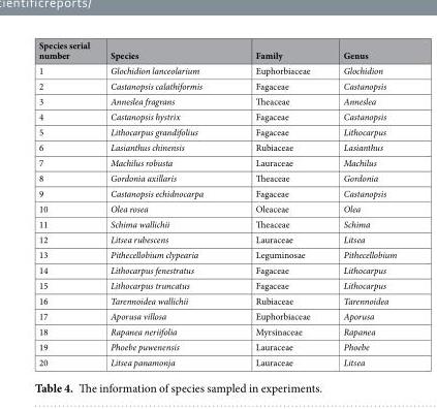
<table><thead><tr><td>Species serial number</td><td>Species</td><td>Family</td><td>Genus</td></tr></thead><tbody><tr><td>1</td><td>Glochidion lanceolarium</td><td>Euphorbiaceae</td><td>Glochidion</td></tr><tr><td>2</td><td>Castanopsis calathiformis</td><td>Fagaceae</td><td>Castanopsis</td></tr><tr><td>3</td><td>Anneslea fragrans</td><td>Theaceae</td><td>Anneslea</td></tr><tr><td>4</td><td>Castanopsis hystrix</td><td>Fagaceae</td><td>Castanopsis</td></tr><tr><td>5</td><td>Lithocarpus grandifolius</td><td>Fagaceae</td><td>Lithocarpus</td></tr><tr><td>6</td><td>Lasianthus chinensis</td><td>Rubiaceae</td><td>Lasianthus</td></tr><tr><td>7</td><td>Machilus robusta</td><td>Lauraceae</td><td>Machilus</td></tr><tr><td>8</td><td>Gordonia axillaris</td><td>Theaceae</td><td>Gordonia</td></tr><tr><td>9</td><td>Castanopsis echidnocarpa</td><td>Fagaceae</td><td>Castanopsis</td></tr><tr><td>10</td><td>Olea rosea</td><td>Oleaceae</td><td>Olea</td></tr><tr><td>11</td><td>Schima wallichii</td><td>Theaceae</td><td>Schima</td></tr><tr><td>12</td><td>Litsea rubescens</td><td>Lauraceae</td><td>Litsea</td></tr><tr><td>13</td><td>Pithecellobium clypearia</td><td>Leguminosae</td><td>Pithecellobium</td></tr><tr><td>14</td><td>Lithocarpus fenestratus</td><td>Fagaceae</td><td>Lithocarpus</td></tr><tr><td>15</td><td>Lithocarpus truncatus</td><td>Fagaceae</td><td>Lithocarpus</td></tr><tr><td>16</td><td>Tarennoidea wallichii</td><td>Rubiaceae</td><td>Tarennoidea</td></tr><tr><td>17</td><td>Aporusa villosa</td><td>Euphorbiaceae</td><td>Aporusa</td></tr><tr><td>18</td><td>Rapanea neriifolia</td><td>Myrsinaceae</td><td>Rapanea</td></tr><tr><td>19</td><td>Phoebe puwenensis</td><td>Lauraceae</td><td>Phoebe</td></tr><tr><td>20</td><td>Litsea panamonja</td><td>Lauraceae</td><td>Litsea</td></tr></tbody></table>